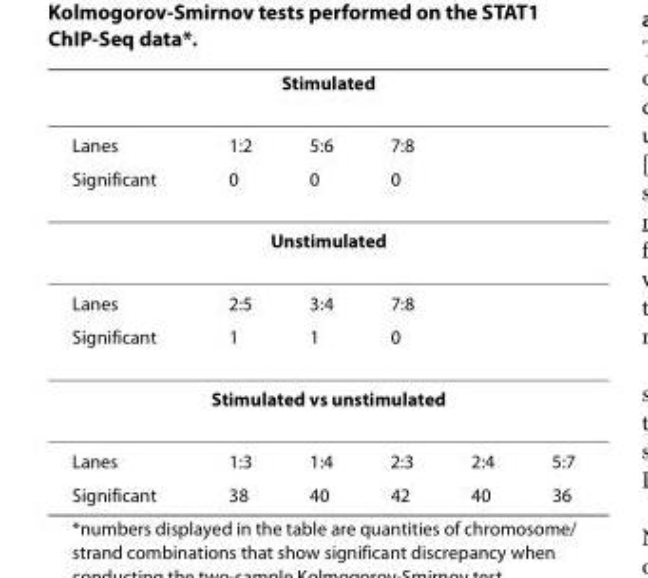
<table><thead><tr><td colspan="6">Stimulated</td></tr><tr><td>Lanes</td><td>1:2</td><td>5:6</td><td>7:8</td><td></td><td></td></tr></thead><tbody><tr><td>Significant</td><td>0</td><td>0</td><td>0</td><td></td><td></td></tr><tr><td colspan="6">Unstimulated</td></tr><tr><td>Lanes</td><td>2:5</td><td>3:4</td><td>7:8</td><td></td><td></td></tr><tr><td>Significant</td><td>1</td><td>1</td><td>0</td><td></td><td></td></tr><tr><td colspan="6">Stimulated vs unstimulated</td></tr><tr><td>Lanes</td><td>1:3</td><td>1:4</td><td>2:3</td><td>2:4</td><td>5:7</td></tr><tr><td>Significant</td><td>38</td><td>40</td><td>42</td><td>40</td><td>36</td></tr></tbody></table>